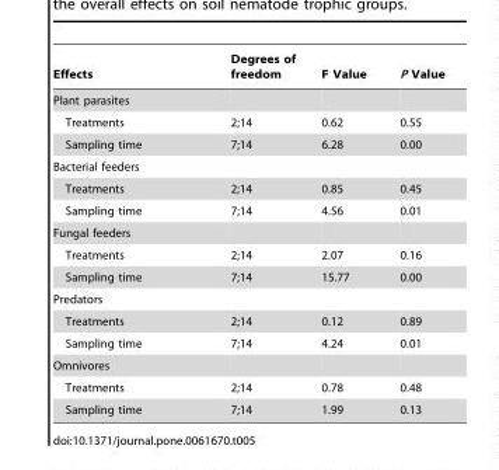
<table><thead><tr><td>Effects</td><td>Degrees of freedom</td><td>F Value</td><td>P Value</td></tr></thead><tbody><tr><td colspan="4">Plant parasites</td></tr><tr><td>Treatments</td><td>2;14</td><td>0.62</td><td>0.55</td></tr><tr><td>Sampling time</td><td>7;14</td><td>6.28</td><td>0.00</td></tr><tr><td colspan="4">Bacterial feeders</td></tr><tr><td>Treatments</td><td>2;14</td><td>0.85</td><td>0.45</td></tr><tr><td>Sampling time</td><td>7;14</td><td>4.56</td><td>0.01</td></tr><tr><td colspan="4">Fungal feeders</td></tr><tr><td>Treatments</td><td>2;14</td><td>2.07</td><td>0.16</td></tr><tr><td>Sampling time</td><td>7;14</td><td>15.77</td><td>0.00</td></tr><tr><td colspan="4">Predators</td></tr><tr><td>Treatments</td><td>2;14</td><td>0.12</td><td>0.89</td></tr><tr><td>Sampling time</td><td>7;14</td><td>4.24</td><td>0.01</td></tr><tr><td colspan="4">Omnivores</td></tr><tr><td>Treatments</td><td>2;14</td><td>0.78</td><td>0.48</td></tr><tr><td>Sampling time</td><td>7;14</td><td>1.99</td><td>0.13</td></tr></tbody></table>